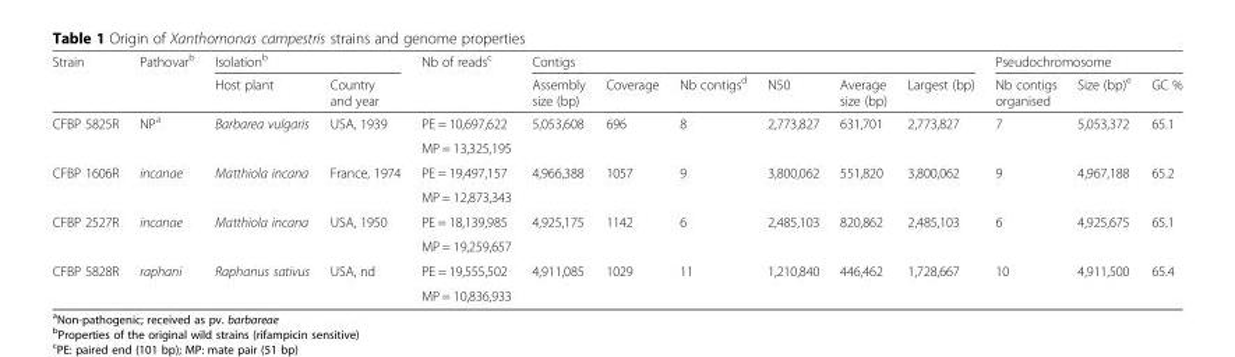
<table><thead><tr><td rowspan="2">Strain</td><td rowspan="2">Pathovar<sup>b</sup></td><td colspan="2">Isolation<sup>b</sup></td><td rowspan="2">Nb of reads<sup>c</sup></td><td colspan="6">Contigs</td><td colspan="3">Pseudochromosome</td></tr><tr><td>Host plant</td><td>Country and year</td><td>Assembly size (bp)</td><td>Coverage</td><td>Nb contigs<sup>d</sup></td><td>N50</td><td>Average size (bp)</td><td>Largest (bp)</td><td>Nb contigs organised</td><td>Size (bp)<sup>e</sup></td><td>GC %</td></tr></thead><tbody><tr><td rowspan="2">CFBP 5825R</td><td rowspan="2">NP<sup>a</sup></td><td rowspan="2">Barbarea vulgaris</td><td rowspan="2">USA, 1939</td><td>PE = 10,697,622</td><td rowspan="2">5,053,608</td><td rowspan="2">696</td><td rowspan="2">8</td><td rowspan="2">2,773,827</td><td rowspan="2">631,701</td><td rowspan="2">2,773,827</td><td rowspan="2">7</td><td rowspan="2">5,053,372</td><td rowspan="2">65.1</td></tr><tr><td>MP = 13,325,195</td></tr><tr><td rowspan="2">CFBP 1606R</td><td rowspan="2">incanae</td><td rowspan="2">Matthiola incana</td><td rowspan="2">France, 1974</td><td>PE = 19,497,157</td><td rowspan="2">4,966,388</td><td rowspan="2">1057</td><td rowspan="2">9</td><td rowspan="2">3,800,062</td><td rowspan="2">551,820</td><td rowspan="2">3,800,062</td><td rowspan="2">9</td><td rowspan="2">4,967,188</td><td rowspan="2">65.2</td></tr><tr><td>MP = 12,873,343</td></tr><tr><td rowspan="2">CFBP 2527R</td><td rowspan="2">incanae</td><td rowspan="2">Matthiola incana</td><td rowspan="2">USA, 1950</td><td>PE = 18,139,985</td><td rowspan="2">4,925,175</td><td rowspan="2">1142</td><td rowspan="2">6</td><td rowspan="2">2,485,103</td><td rowspan="2">820,862</td><td rowspan="2">2,485,103</td><td rowspan="2">6</td><td rowspan="2">4,925,675</td><td rowspan="2">65.1</td></tr><tr><td>MP = 19,259,657</td></tr><tr><td rowspan="2">CFBP 5828R</td><td rowspan="2">raphani</td><td rowspan="2">Raphanus sativus</td><td rowspan="2">USA, nd</td><td>PE = 19,555,502</td><td rowspan="2">4,911,085</td><td rowspan="2">1029</td><td rowspan="2">11</td><td rowspan="2">1,210,840</td><td rowspan="2">446,462</td><td rowspan="2">1,728,667</td><td rowspan="2">10</td><td rowspan="2">4,911,500</td><td rowspan="2">65.4</td></tr><tr><td>MP = 10,836,933</td></tr></tbody></table>